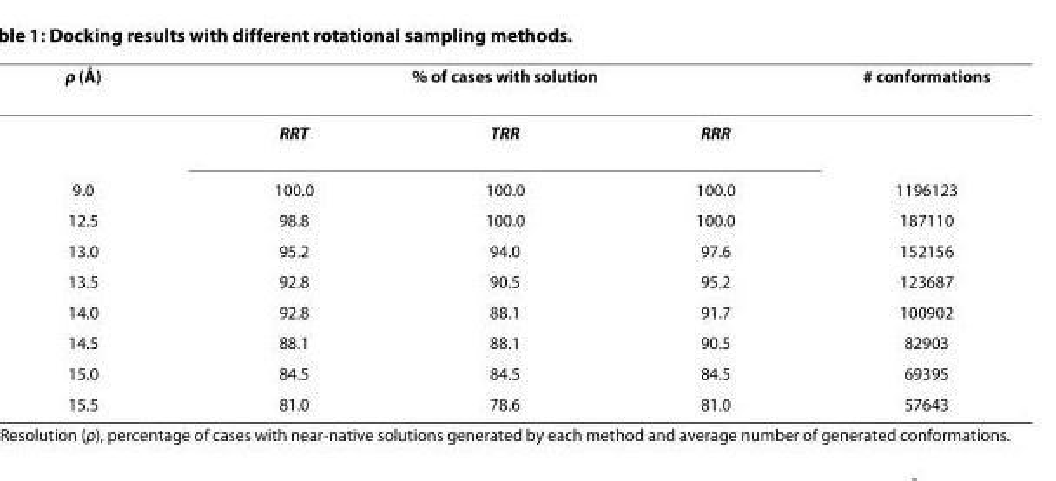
<table><thead><tr><td rowspan="2">ρ (Å)</td><td colspan="3">% of cases with solution</td><td rowspan="2"># conformations</td></tr><tr><td>RRT</td><td>TRR</td><td>RRR</td></tr></thead><tbody><tr><td>9.0</td><td>100.0</td><td>100.0</td><td>100.0</td><td>1196123</td></tr><tr><td>12.5</td><td>98.8</td><td>100.0</td><td>100.0</td><td>187110</td></tr><tr><td>13.0</td><td>95.2</td><td>94.0</td><td>97.6</td><td>152156</td></tr><tr><td>13.5</td><td>92.8</td><td>90.5</td><td>95.2</td><td>123687</td></tr><tr><td>14.0</td><td>92.8</td><td>88.1</td><td>91.7</td><td>100902</td></tr><tr><td>14.5</td><td>88.1</td><td>88.1</td><td>90.5</td><td>82903</td></tr><tr><td>15.0</td><td>84.5</td><td>84.5</td><td>84.5</td><td>69395</td></tr><tr><td>15.5</td><td>81.0</td><td>78.6</td><td>81.0</td><td>57643</td></tr></tbody></table>